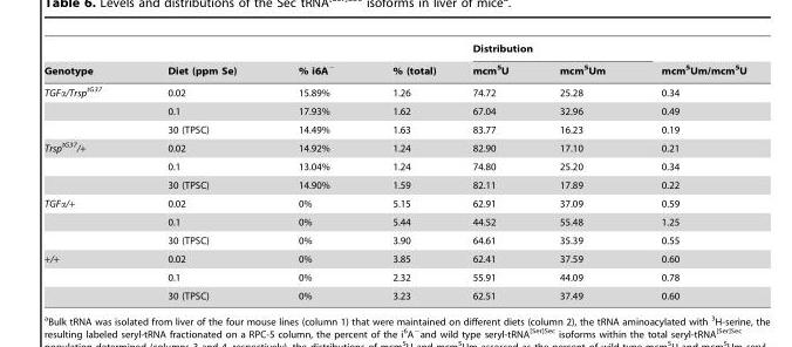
<table><thead><tr><td rowspan="2">Genotype</td><td rowspan="2">Diet (ppm Se)</td><td rowspan="2">% i6A<sup>−</sup></td><td rowspan="2">% (total)</td><td colspan="2">Distribution</td><td rowspan="2">mcm<sup>5</sup>Um/mcm<sup>5</sup>U</td></tr><tr><td>mcm<sup>5</sup>U</td><td>mcm<sup>5</sup>Um</td></tr></thead><tbody><tr><td rowspan="3">TGFα/Trsp<sup>tG37</sup></td><td>0.02</td><td>15.89%</td><td>1.26</td><td>74.72</td><td>25.28</td><td>0.34</td></tr><tr><td>0.1</td><td>17.93%</td><td>1.62</td><td>67.04</td><td>32.96</td><td>0.49</td></tr><tr><td>30 (TPSC)</td><td>14.49%</td><td>1.63</td><td>83.77</td><td>16.23</td><td>0.19</td></tr><tr><td rowspan="3">Trsp<sup>tG37</sup>/+</td><td>0.02</td><td>14.92%</td><td>1.24</td><td>82.90</td><td>17.10</td><td>0.21</td></tr><tr><td>0.1</td><td>13.04%</td><td>1.24</td><td>74.80</td><td>25.20</td><td>0.34</td></tr><tr><td>30 (TPSC)</td><td>14.90%</td><td>1.59</td><td>82.11</td><td>17.89</td><td>0.22</td></tr><tr><td rowspan="3">TGFα/+</td><td>0.02</td><td>0%</td><td>5.15</td><td>62.91</td><td>37.09</td><td>0.59</td></tr><tr><td>0.1</td><td>0%</td><td>5.44</td><td>44.52</td><td>55.48</td><td>1.25</td></tr><tr><td>30 (TPSC)</td><td>0%</td><td>3.90</td><td>64.61</td><td>35.39</td><td>0.55</td></tr><tr><td rowspan="3">+/+</td><td>0.02</td><td>0%</td><td>3.85</td><td>62.41</td><td>37.59</td><td>0.60</td></tr><tr><td>0.1</td><td>0%</td><td>2.32</td><td>55.91</td><td>44.09</td><td>0.78</td></tr><tr><td>30 (TPSC)</td><td>0%</td><td>3.23</td><td>62.51</td><td>37.49</td><td>0.60</td></tr></tbody></table>